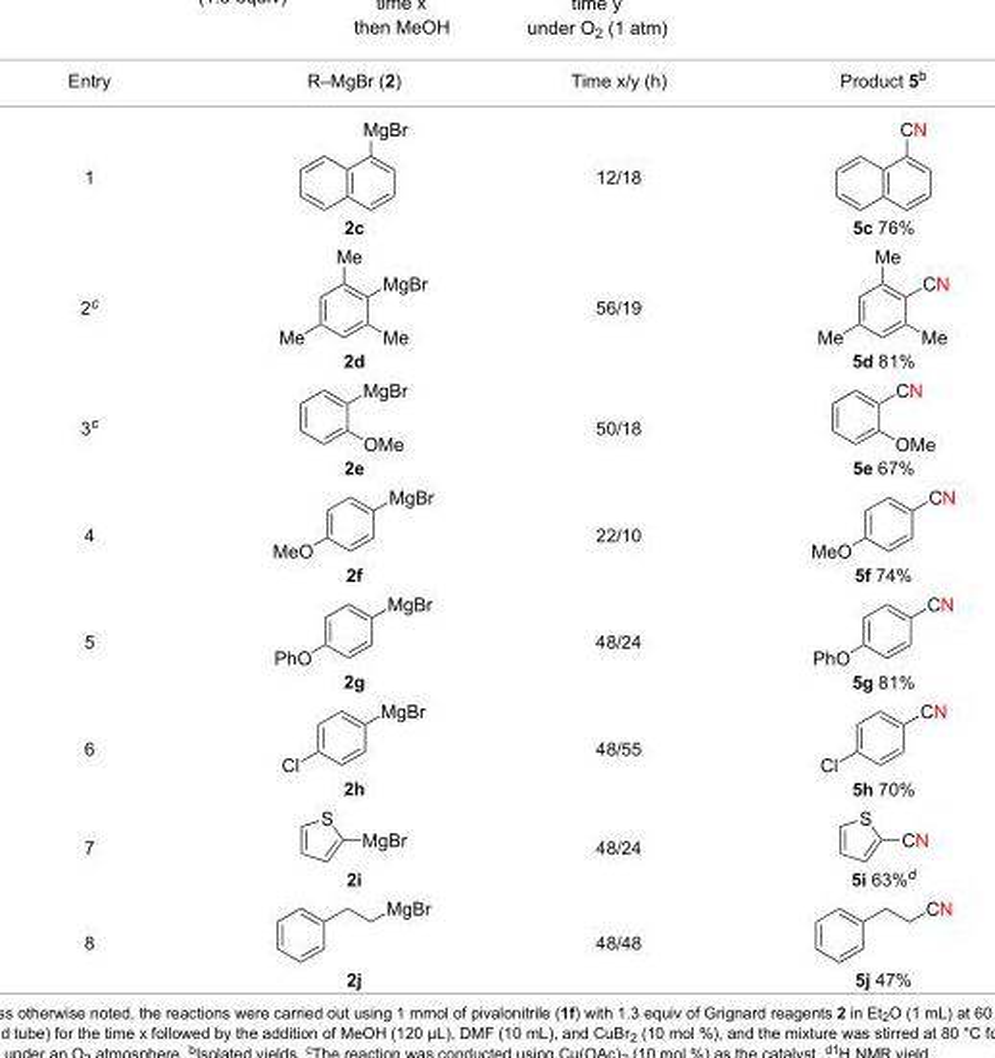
<table><tbody><tr><td>Entry</td><td>R–MgBr (2)</td><td>Time x/y (h)</td><td>Product 5<sup>b</sup></td></tr><tr><td>1</td><td>2c</td><td>12/18</td><td>5c 76%</td></tr><tr><td>2c</td><td>2d</td><td>56/19</td><td>5d 81%</td></tr><tr><td>3<sup>c</sup></td><td>2e</td><td>50/18</td><td>5e 67%</td></tr><tr><td>4</td><td>2f</td><td>22/10</td><td>5f 74%</td></tr><tr><td>5</td><td>2g</td><td>48/24</td><td>5g 81%</td></tr><tr><td>6</td><td>2h</td><td>48/55</td><td>5h 70%</td></tr><tr><td>7</td><td>2i</td><td>48/24</td><td>5i 63%d</td></tr><tr><td>8</td><td>2j</td><td>48/48</td><td>5j 47%</td></tr></tbody></table>